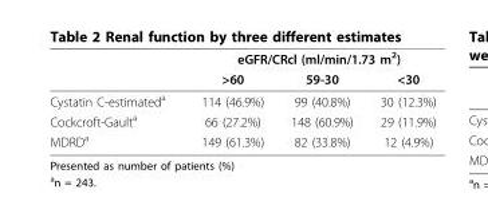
<table><thead><tr><td rowspan="2"></td><td colspan="3">eGFR/CRcl (ml/min/1.73 m<sup>2</sup>)</td></tr><tr><td>&gt;60</td><td>59-30</td><td>&lt;30</td></tr></thead><tbody><tr><td>Cystatin C-estimated<sup>a</sup></td><td>114 (46.9%)</td><td>99 (40.8%)</td><td>30 (12.3%)</td></tr><tr><td>Cockcroft-Gault<sup>a</sup></td><td>66 (27.2%)</td><td>148 (60.9%)</td><td>29 (11.9%)</td></tr><tr><td>MDRD<sup>a</sup></td><td>149 (61.3%)</td><td>82 (33.8%)</td><td>12 (4.9%)</td></tr></tbody></table>